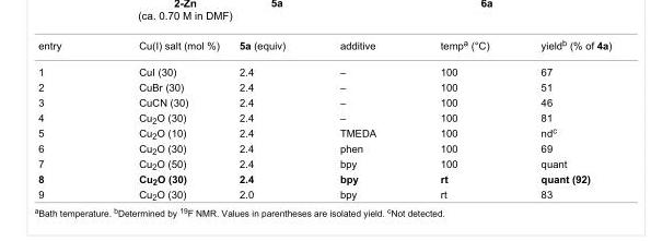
<table><tbody><tr><td>entry</td><td>Cu(I) salt (mol %)</td><td>5a (equiv)</td><td>additive</td><td>temp<sup>a</sup> (°C)</td><td>yield<sup>b</sup> (% of 4a)</td></tr><tr><td>1</td><td>CuI (30)</td><td>2.4</td><td>–</td><td>100</td><td>67</td></tr><tr><td>2</td><td>CuBr (30)</td><td>2.4</td><td>–</td><td>100</td><td>51</td></tr><tr><td>3</td><td>CuCN (30)</td><td>2.4</td><td>–</td><td>100</td><td>46</td></tr><tr><td>4</td><td>Cu<sub>2</sub>O (30)</td><td>2.4</td><td>–</td><td>100</td><td>81</td></tr><tr><td>5</td><td>Cu<sub>2</sub>O (10)</td><td>2.4</td><td>TMEDA</td><td>100</td><td>nd<sup>c</sup></td></tr><tr><td>6</td><td>Cu<sub>2</sub>O (30)</td><td>2.4</td><td>phen</td><td>100</td><td>69</td></tr><tr><td>7</td><td>Cu<sub>2</sub>O (50)</td><td>2.4</td><td>bpy</td><td>100</td><td>quant</td></tr><tr><td>8</td><td>Cu<sub>2</sub>O (30)</td><td>2.4</td><td>bpy</td><td>rt</td><td>quant (92)</td></tr><tr><td>9</td><td>Cu<sub>2</sub>O (30)</td><td>2.0</td><td>bpy</td><td>rt</td><td>83</td></tr></tbody></table>